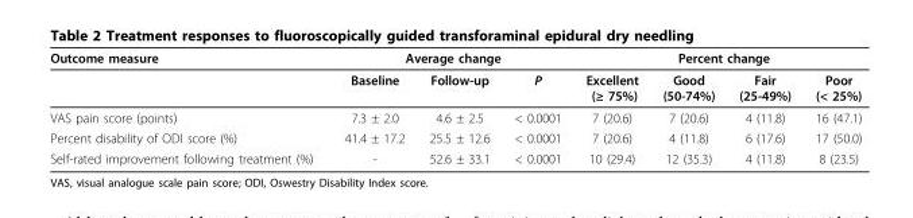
<table><thead><tr><td rowspan="2">Outcome measure</td><td colspan="3">Average change</td><td colspan="4">Percent change</td></tr><tr><td>Baseline</td><td>Follow-up</td><td>P</td><td>Excellent (≥ 75%)</td><td>Good (50-74%)</td><td>Fair (25-49%)</td><td>Poor (&lt; 25%)</td></tr></thead><tbody><tr><td>VAS pain score (points)</td><td>7.3 ± 2.0</td><td>4.6 ± 2.5</td><td>&lt; 0.0001</td><td>7 (20.6)</td><td>7 (20.6)</td><td>4 (11.8)</td><td>16 (47.1)</td></tr><tr><td>Percent disability of ODI score (%)</td><td>41.4 ± 17.2</td><td>25.5 ± 12.6</td><td>&lt; 0.0001</td><td>7 (20.6)</td><td>4 (11.8)</td><td>6 (17.6)</td><td>17 (50.0)</td></tr><tr><td>Self-rated improvement following treatment (%)</td><td>-</td><td>52.6 ± 33.1</td><td>&lt; 0.0001</td><td>10 (29.4)</td><td>12 (35.3)</td><td>4 (11.8)</td><td>8 (23.5)</td></tr></tbody></table>